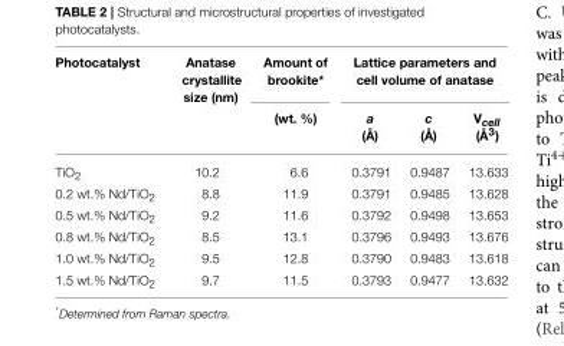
<table><thead><tr><td rowspan="2">Photocatalyst</td><td rowspan="2">Anatase crystallite size (nm)</td><td rowspan="2">Amount of brookite* (wt. %)</td><td colspan="3">Lattice parameters and cell volume of anatase</td></tr><tr><td>a (Å)</td><td>c (Å)</td><td>Vcell (Å3)</td></tr></thead><tbody><tr><td>TiO<sub>2</sub></td><td>10.2</td><td>6.6</td><td>0.3791</td><td>0.9487</td><td>13.633</td></tr><tr><td>0.2 wt.% Nd/TiO<sub>2</sub></td><td>8.8</td><td>11.9</td><td>0.3791</td><td>0.9485</td><td>13.628</td></tr><tr><td>0.5 wt.% Nd/TiO<sub>2</sub></td><td>9.2</td><td>11.6</td><td>0.3792</td><td>0.9498</td><td>13.653</td></tr><tr><td>0.8 wt.% Nd/TiO<sub>2</sub></td><td>8.5</td><td>13.1</td><td>0.3796</td><td>0.9493</td><td>13.676</td></tr><tr><td>1.0 wt.% Nd/TiO<sub>2</sub></td><td>9.5</td><td>12.8</td><td>0.3790</td><td>0.9483</td><td>13.618</td></tr><tr><td>1.5 wt.% Nd/TiO<sub>2</sub></td><td>9.7</td><td>11.5</td><td>0.3793</td><td>0.9477</td><td>13.632</td></tr></tbody></table>